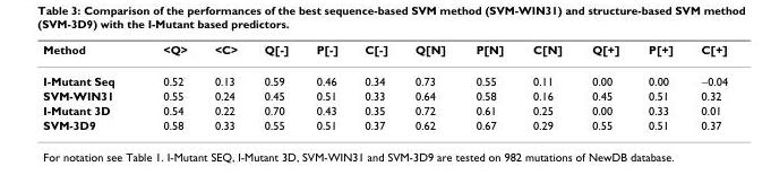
<table><thead><tr><td>Method</td><td>&lt;Q&gt;</td><td>&lt;C&gt;</td><td>Q[-]</td><td>P[-]</td><td>C[-]</td><td>Q[N]</td><td>P[N]</td><td>C[N]</td><td>Q[+]</td><td>P[+]</td><td>C[+]</td></tr></thead><tbody><tr><td>I-Mutant Seq</td><td>0.52</td><td>0.13</td><td>0.59</td><td>0.46</td><td>0.34</td><td>0.73</td><td>0.55</td><td>0.11</td><td>0.00</td><td>0.00</td><td>−0.04</td></tr><tr><td>SVM-WIN31</td><td>0.55</td><td>0.24</td><td>0.45</td><td>0.51</td><td>0.33</td><td>0.64</td><td>0.58</td><td>0.16</td><td>0.45</td><td>0.51</td><td>0.32</td></tr><tr><td>I-Mutant 3D</td><td>0.54</td><td>0.22</td><td>0.70</td><td>0.43</td><td>0.35</td><td>0.72</td><td>0.61</td><td>0.25</td><td>0.00</td><td>0.33</td><td>0.01</td></tr><tr><td>SVM-3D9</td><td>0.58</td><td>0.33</td><td>0.55</td><td>0.51</td><td>0.37</td><td>0.62</td><td>0.67</td><td>0.29</td><td>0.55</td><td>0.51</td><td>0.37</td></tr></tbody></table>